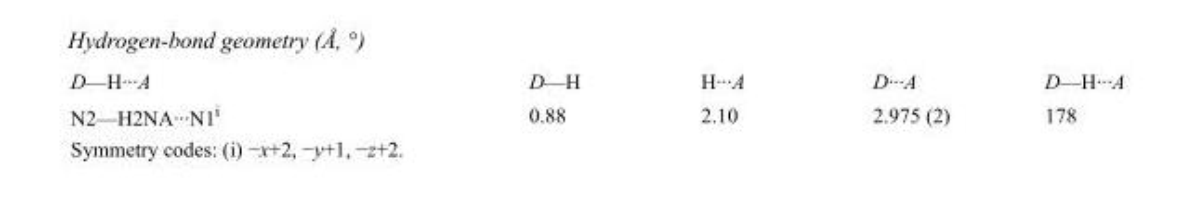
<table><tbody><tr><td>D—H···A</td><td>D—H</td><td>H···A</td><td>D···A</td><td>D—H···A</td></tr><tr><td>N2—H2NA···N1<sup>i</sup></td><td>0.88</td><td>2.10</td><td>2.975 (2)</td><td>178</td></tr></tbody></table>